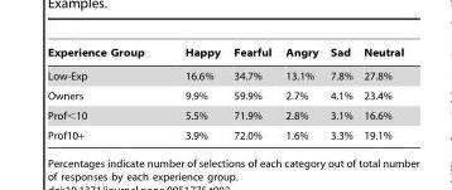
<table><thead><tr><td>Experience Group</td><td>Happy</td><td>Fearful</td><td>Angry</td><td>Sad</td><td>Neutral</td></tr></thead><tbody><tr><td>Low-Exp</td><td>16.6%</td><td>34.7%</td><td>13.1%</td><td>7.8%</td><td>27.8%</td></tr><tr><td>Owners</td><td>9.9%</td><td>59.9%</td><td>2.7%</td><td>4.1%</td><td>23.4%</td></tr><tr><td>Prof&lt;10</td><td>5.5%</td><td>71.9%</td><td>2.8%</td><td>3.1%</td><td>16.6%</td></tr><tr><td>Prof10+</td><td>3.9%</td><td>72.0%</td><td>1.6%</td><td>3.3%</td><td>19.1%</td></tr></tbody></table>